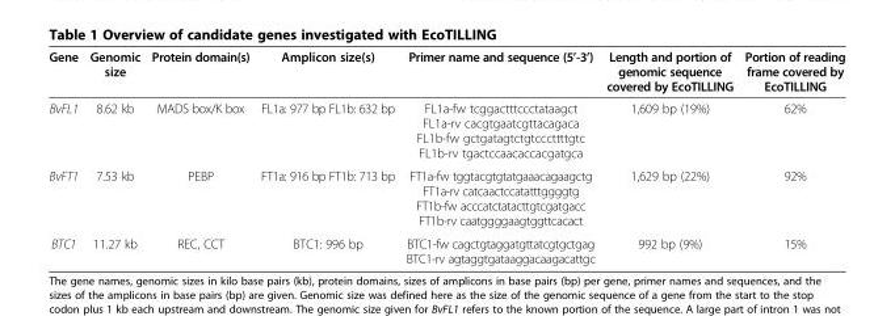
<table><thead><tr><td>Gene</td><td>Genomic size</td><td>Protein domain(s)</td><td>Amplicon size(s)</td><td>Primer name and sequence (5’-3’)</td><td>Length and portion of genomic sequence covered by EcoTILLING</td><td>Portion of reading frame covered by EcoTILLING</td></tr></thead><tbody><tr><td>BvFL1</td><td>8.62 kb</td><td>MADS box/K box</td><td>FL1a: 977 bp FL1b: 632 bp</td><td>FL1a-fw tcggactttccctataagct FL1a-rv cacgtgaatcgttacagaca FL1b-fw gctgatagtctgtcccttttgtc FL1b-rv tgactccaacaccacgatgca</td><td>1,609 bp (19%)</td><td>62%</td></tr><tr><td>BvFT1</td><td>7.53 kb</td><td>PEBP</td><td>FT1a: 916 bp FT1b: 713 bp</td><td>FT1a-fw tggtacgtgtatgaaacagaagctg FT1a-rv catcaactccatatttggggtg FT1b-fw acccatctatacttgtcgatgacc FT1b-rv caatggggaagtggttcacact</td><td>1,629 bp (22%)</td><td>92%</td></tr><tr><td>BTC1</td><td>11.27 kb</td><td>REC, CCT</td><td>BTC1: 996 bp</td><td>BTC1-fw cagctgtaggatgttatcgtgctgag BTC1-rv agtaggtgataaggacaagacattgc</td><td>992 bp (9%)</td><td>15%</td></tr></tbody></table>